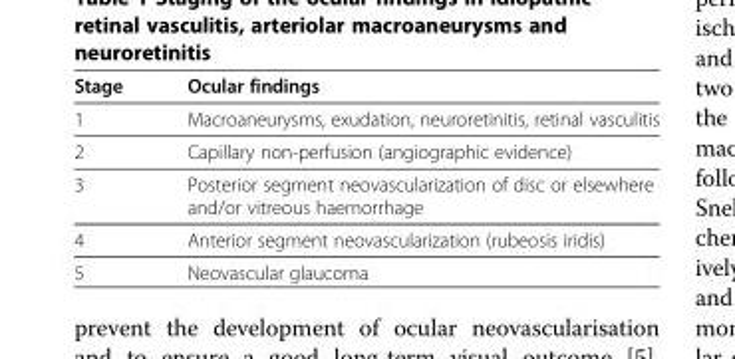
<table><thead><tr><td>Stage</td><td>Ocular findings</td></tr></thead><tbody><tr><td>1</td><td>Macroaneurysms, exudation, neuroretinitis, retinal vasculitis</td></tr><tr><td>2</td><td>Capillary non-perfusion (angiographic evidence)</td></tr><tr><td>3</td><td>Posterior segment neovascularization of disc or elsewhere and/or vitreous haemorrhage</td></tr><tr><td>4</td><td>Anterior segment neovascularization (rubeosis iridis)</td></tr><tr><td>5</td><td>Neovascular glaucoma</td></tr></tbody></table>